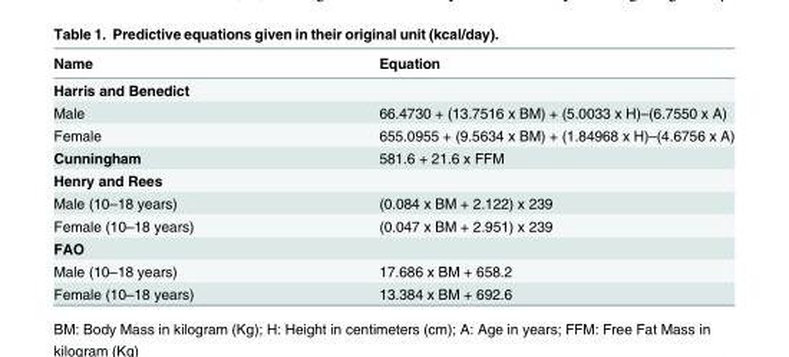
<table><thead><tr><td>Name</td><td>Equation</td></tr></thead><tbody><tr><td colspan="2">Harris and Benedict</td></tr><tr><td>Male</td><td>66.4730 + (13.7516 x BM) + (5.0033 x H)–(6.7550 x A)</td></tr><tr><td>Female</td><td>655.0955 + (9.5634 x BM) + (1.84968 x H)–(4.6756 x A)</td></tr><tr><td>Cunningham</td><td>581.6 + 21.6 x FFM</td></tr><tr><td colspan="2">Henry and Rees</td></tr><tr><td>Male (10–18 years)</td><td>(0.084 x BM + 2.122) x 239</td></tr><tr><td>Female (10–18 years)</td><td>(0.047 x BM + 2.951) x 239</td></tr><tr><td colspan="2">FAO</td></tr><tr><td>Male (10–18 years)</td><td>17.686 x BM + 658.2</td></tr><tr><td>Female (10–18 years)</td><td>13.384 x BM + 692.6</td></tr></tbody></table>